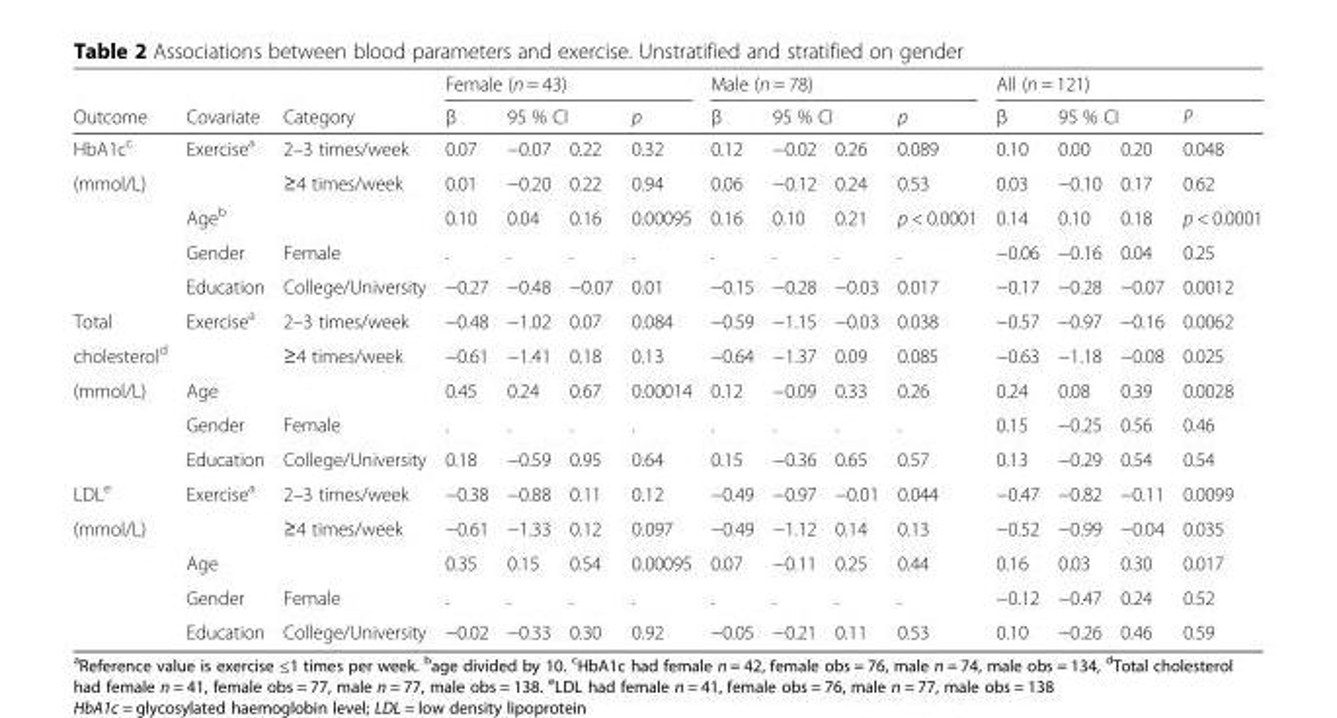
<table><thead><tr><td rowspan="3">Outcome HbA1c<sup>c</sup></td><td rowspan="3">Covariate Exercise<sup>a</sup></td><td rowspan="3">Category 2–3 times/week</td><td colspan="4">Female (n = 43)</td><td colspan="4">Male (n = 78)</td><td colspan="4">All (n = 121)</td></tr><tr><td rowspan="2">β 0.07</td><td colspan="2">95 % CI</td><td rowspan="2">p 0.32</td><td rowspan="2">β 0.12</td><td colspan="2">95 % CI</td><td rowspan="2">p 0.089</td><td rowspan="2">β 0.10</td><td colspan="2">95 % CI</td><td rowspan="2">P 0.048</td></tr><tr><td>−0.07</td><td>0.22</td><td>−0.02</td><td>0.26</td><td>0.00</td><td>0.20</td></tr></thead><tbody><tr><td rowspan="4">(mmol/L)</td><td></td><td>≥4 times/week</td><td>0.01</td><td>−0.20</td><td>0.22</td><td>0.94</td><td>0.06</td><td>−0.12</td><td>0.24</td><td>0.53</td><td>0.03</td><td>−0.10</td><td>0.17</td><td>0.62</td></tr><tr><td>Age<sup>b</sup></td><td></td><td>0.10</td><td>0.04</td><td>0.16</td><td>0.00095</td><td>0.16</td><td>0.10</td><td>0.21</td><td>p &lt; 0.0001</td><td>0.14</td><td>0.10</td><td>0.18</td><td>p &lt; 0.0001</td></tr><tr><td>Gender</td><td>Female</td><td>.</td><td>.</td><td>.</td><td>.</td><td>.</td><td>.</td><td>.</td><td>.</td><td>−0.06</td><td>−0.16</td><td>0.04</td><td>0.25</td></tr><tr><td>Education</td><td>College/University</td><td>−0.27</td><td>−0.48</td><td>−0.07</td><td>0.01</td><td>−0.15</td><td>−0.28</td><td>−0.03</td><td>0.017</td><td>−0.17</td><td>−0.28</td><td>−0.07</td><td>0.0012</td></tr><tr><td>Total</td><td>Exercise<sup>a</sup></td><td>2–3 times/week</td><td>−0.48</td><td>−1.02</td><td>0.07</td><td>0.084</td><td>−0.59</td><td>−1.15</td><td>−0.03</td><td>0.038</td><td>−0.57</td><td>−0.97</td><td>−0.16</td><td>0.0062</td></tr><tr><td>cholesterol<sup>d</sup></td><td></td><td>≥4 times/week</td><td>−0.61</td><td>−1.41</td><td>0.18</td><td>0.13</td><td>−0.64</td><td>−1.37</td><td>0.09</td><td>0.085</td><td>−0.63</td><td>−1.18</td><td>−0.08</td><td>0.025</td></tr><tr><td rowspan="3">(mmol/L)</td><td>Age</td><td></td><td>0.45</td><td>0.24</td><td>0.67</td><td>0.00014</td><td>0.12</td><td>−0.09</td><td>0.33</td><td>0.26</td><td>0.24</td><td>0.08</td><td>0.39</td><td>0.0028</td></tr><tr><td>Gender</td><td>Female</td><td>.</td><td>.</td><td>.</td><td>.</td><td>.</td><td>.</td><td>.</td><td>.</td><td>0.15</td><td>−0.25</td><td>0.56</td><td>0.46</td></tr><tr><td>Education</td><td>College/University</td><td>0.18</td><td>−0.59</td><td>0.95</td><td>0.64</td><td>0.15</td><td>−0.36</td><td>0.65</td><td>0.57</td><td>0.13</td><td>−0.29</td><td>0.54</td><td>0.54</td></tr><tr><td>LDL<sup>e</sup></td><td>Exercise<sup>a</sup></td><td>2–3 times/week</td><td>−0.38</td><td>−0.88</td><td>0.11</td><td>0.12</td><td>−0.49</td><td>−0.97</td><td>−0.01</td><td>0.044</td><td>−0.47</td><td>−0.82</td><td>−0.11</td><td>0.0099</td></tr><tr><td rowspan="4">(mmol/L)</td><td></td><td>≥4 times/week</td><td>−0.61</td><td>−1.33</td><td>0.12</td><td>0.097</td><td>−0.49</td><td>−1.12</td><td>0.14</td><td>0.13</td><td>−0.52</td><td>−0.99</td><td>−0.04</td><td>0.035</td></tr><tr><td>Age</td><td></td><td>0.35</td><td>0.15</td><td>0.54</td><td>0.00095</td><td>0.07</td><td>−0.11</td><td>0.25</td><td>0.44</td><td>0.16</td><td>0.03</td><td>0.30</td><td>0.017</td></tr><tr><td>Gender</td><td>Female</td><td>.</td><td>.</td><td>.</td><td>.</td><td>.</td><td>.</td><td>.</td><td>.</td><td>−0.12</td><td>−0.47</td><td>0.24</td><td>0.52</td></tr><tr><td>Education</td><td>College/University</td><td>−0.02</td><td>−0.33</td><td>0.30</td><td>0.92</td><td>−0.05</td><td>−0.21</td><td>0.11</td><td>0.53</td><td>0.10</td><td>−0.26</td><td>0.46</td><td>0.59</td></tr></tbody></table>